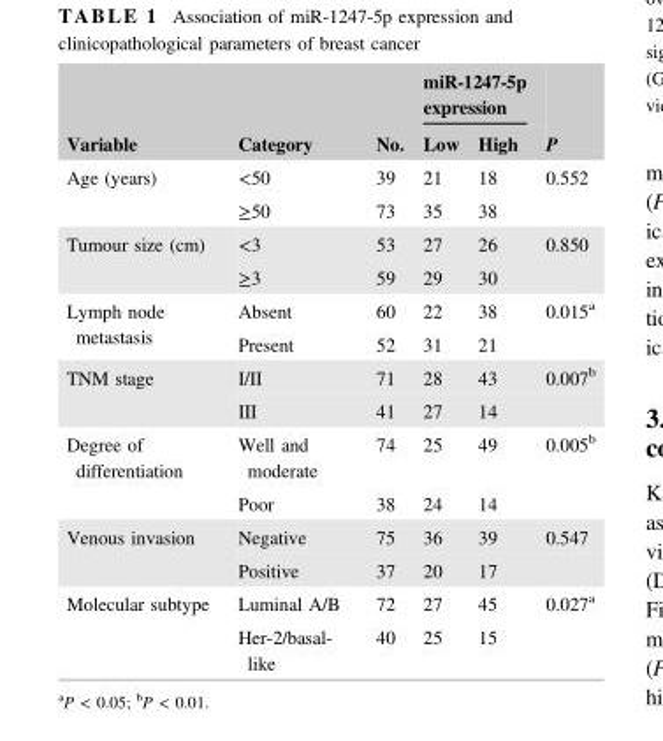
<table><thead><tr><td rowspan="2">Variable</td><td rowspan="2">Category</td><td rowspan="2">No.</td><td colspan="2">miR‐1247‐5p expression</td><td rowspan="2">P</td></tr><tr><td>Low</td><td>High</td></tr></thead><tbody><tr><td rowspan="2">Age (years)</td><td>&lt;50</td><td>39</td><td>21</td><td>18</td><td>0.552</td></tr><tr><td>≥50</td><td>73</td><td>35</td><td>38</td><td></td></tr><tr><td rowspan="2">Tumour size (cm)</td><td>&lt;3</td><td>53</td><td>27</td><td>26</td><td>0.850</td></tr><tr><td>≥3</td><td>59</td><td>29</td><td>30</td><td></td></tr><tr><td rowspan="2">Lymph node metastasis</td><td>Absent</td><td>60</td><td>22</td><td>38</td><td>0.015<sup>a</sup></td></tr><tr><td>Present</td><td>52</td><td>31</td><td>21</td><td></td></tr><tr><td rowspan="2">TNM stage</td><td>I/II</td><td>71</td><td>28</td><td>43</td><td>0.007<sup>b</sup></td></tr><tr><td>III</td><td>41</td><td>27</td><td>14</td><td></td></tr><tr><td rowspan="2">Degree of differentiation</td><td>Well and moderate</td><td>74</td><td>25</td><td>49</td><td>0.005<sup>b</sup></td></tr><tr><td>Poor</td><td>38</td><td>24</td><td>14</td><td></td></tr><tr><td rowspan="2">Venous invasion</td><td>Negative</td><td>75</td><td>36</td><td>39</td><td>0.547</td></tr><tr><td>Positive</td><td>37</td><td>20</td><td>17</td><td></td></tr><tr><td rowspan="2">Molecular subtype</td><td>Luminal A/B</td><td>72</td><td>27</td><td>45</td><td>0.027<sup>a</sup></td></tr><tr><td>Her‐2/basal‐ like</td><td>40</td><td>25</td><td>15</td><td></td></tr></tbody></table>